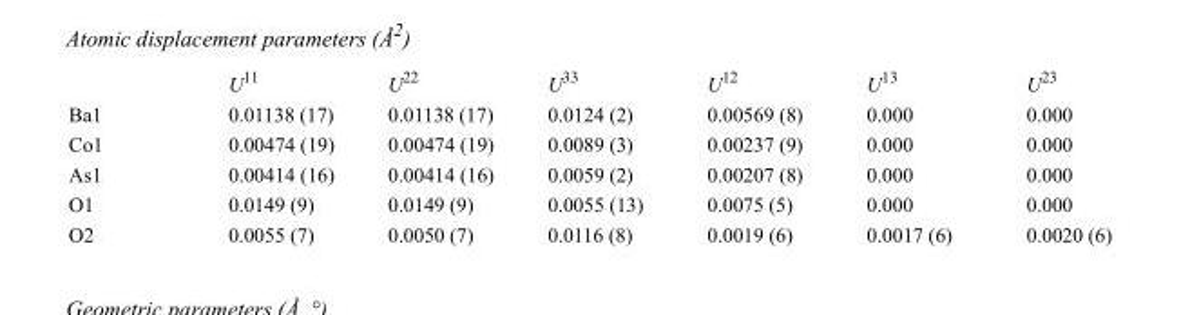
<table><thead><tr><td></td><td>U<sup>11</sup></td><td>U<sup>22</sup></td><td>U<sup>33</sup></td><td>U<sup>12</sup></td><td>U<sup>13</sup></td><td>U<sup>23</sup></td></tr></thead><tbody><tr><td>Ba1</td><td>0.01138 (17)</td><td>0.01138 (17)</td><td>0.0124 (2)</td><td>0.00569 (8)</td><td>0.000</td><td>0.000</td></tr><tr><td>Co1</td><td>0.00474 (19)</td><td>0.00474 (19)</td><td>0.0089 (3)</td><td>0.00237 (9)</td><td>0.000</td><td>0.000</td></tr><tr><td>As1</td><td>0.00414 (16)</td><td>0.00414 (16)</td><td>0.0059 (2)</td><td>0.00207 (8)</td><td>0.000</td><td>0.000</td></tr><tr><td>O1</td><td>0.0149 (9)</td><td>0.0149 (9)</td><td>0.0055 (13)</td><td>0.0075 (5)</td><td>0.000</td><td>0.000</td></tr><tr><td>O2</td><td>0.0055 (7)</td><td>0.0050 (7)</td><td>0.0116 (8)</td><td>0.0019 (6)</td><td>0.0017 (6)</td><td>0.0020 (6)</td></tr></tbody></table>